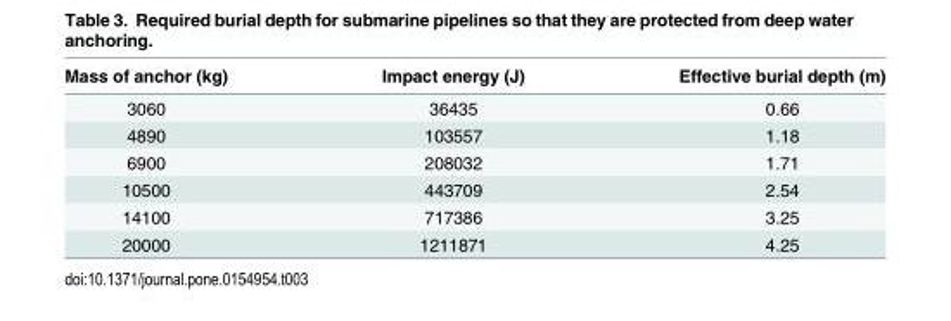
<table><thead><tr><td>Mass of anchor (kg)</td><td>Impact energy (J)</td><td>Effective burial depth (m)</td></tr></thead><tbody><tr><td>3060</td><td>36435</td><td>0.66</td></tr><tr><td>4890</td><td>103557</td><td>1.18</td></tr><tr><td>6900</td><td>208032</td><td>1.71</td></tr><tr><td>10500</td><td>443709</td><td>2.54</td></tr><tr><td>14100</td><td>717386</td><td>3.25</td></tr><tr><td>20000</td><td>1211871</td><td>4.25</td></tr></tbody></table>